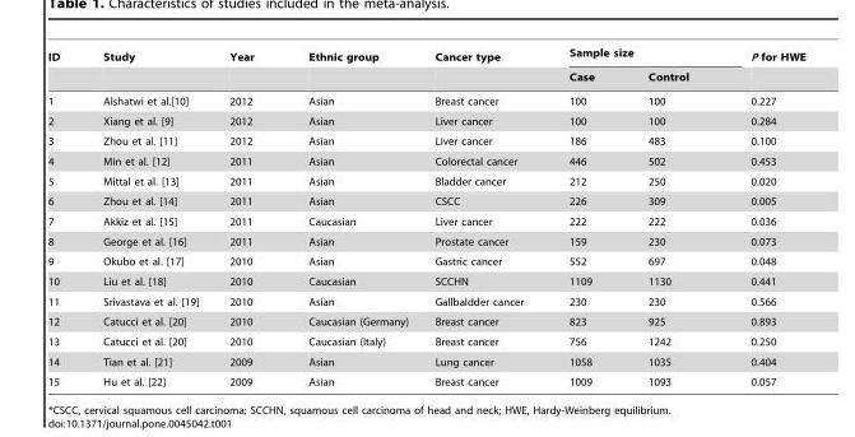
<table><thead><tr><td rowspan="2">ID</td><td rowspan="2">Study</td><td rowspan="2">Year</td><td rowspan="2">Ethnic group</td><td rowspan="2">Cancer type</td><td colspan="2">Sample size</td><td rowspan="2">P for HWE</td></tr><tr><td>Case</td><td>Control</td></tr></thead><tbody><tr><td>1</td><td>Alshatwi et al.[10]</td><td>2012</td><td>Asian</td><td>Breast cancer</td><td>100</td><td>100</td><td>0.227</td></tr><tr><td>2</td><td>Xiang et al. [9]</td><td>2012</td><td>Asian</td><td>Liver cancer</td><td>100</td><td>100</td><td>0.284</td></tr><tr><td>3</td><td>Zhou et al. [11]</td><td>2012</td><td>Asian</td><td>Liver cancer</td><td>186</td><td>483</td><td>0.100</td></tr><tr><td>4</td><td>Min et al. [12]</td><td>2011</td><td>Asian</td><td>Colorectal cancer</td><td>446</td><td>502</td><td>0.453</td></tr><tr><td>5</td><td>Mittal et al. [13]</td><td>2011</td><td>Asian</td><td>Bladder cancer</td><td>212</td><td>250</td><td>0.020</td></tr><tr><td>6</td><td>Zhou et al. [14]</td><td>2011</td><td>Asian</td><td>CSCC</td><td>226</td><td>309</td><td>0.005</td></tr><tr><td>7</td><td>Akkiz et al. [15]</td><td>2011</td><td>Caucasian</td><td>Liver cancer</td><td>222</td><td>222</td><td>0.036</td></tr><tr><td>8</td><td>George et al. [16]</td><td>2011</td><td>Asian</td><td>Prostate cancer</td><td>159</td><td>230</td><td>0.073</td></tr><tr><td>9</td><td>Okubo et al. [17]</td><td>2010</td><td>Asian</td><td>Gastric cancer</td><td>552</td><td>697</td><td>0.048</td></tr><tr><td>10</td><td>Liu et al. [18]</td><td>2010</td><td>Caucasian</td><td>SCCHN</td><td>1109</td><td>1130</td><td>0.441</td></tr><tr><td>11</td><td>Srivastava et al. [19]</td><td>2010</td><td>Asian</td><td>Gallbaldder cancer</td><td>230</td><td>230</td><td>0.566</td></tr><tr><td>12</td><td>Catucci et al. [20]</td><td>2010</td><td>Caucasian (Germany)</td><td>Breast cancer</td><td>823</td><td>925</td><td>0.893</td></tr><tr><td>13</td><td>Catucci et al. [20]</td><td>2010</td><td>Caucasian (Italy)</td><td>Breast cancer</td><td>756</td><td>1242</td><td>0.250</td></tr><tr><td>14</td><td>Tian et al. [21]</td><td>2009</td><td>Asian</td><td>Lung cancer</td><td>1058</td><td>1035</td><td>0.404</td></tr><tr><td>15</td><td>Hu et al. [22]</td><td>2009</td><td>Asian</td><td>Breast cancer</td><td>1009</td><td>1093</td><td>0.057</td></tr></tbody></table>